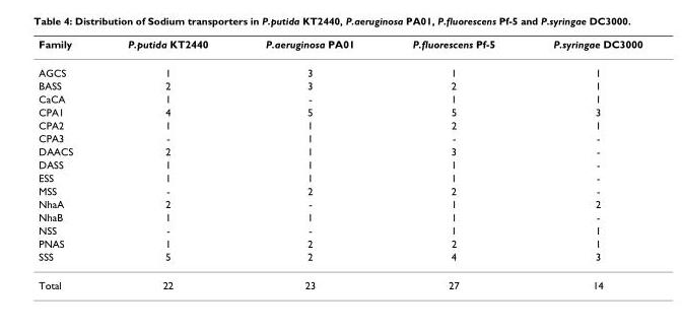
<table><thead><tr><td>Family</td><td>P.putida KT2440</td><td>P.aeruginosa PA01</td><td>P.fluorescens Pf-5</td><td>P.syringae DC3000</td></tr></thead><tbody><tr><td>AGCS</td><td>1</td><td>3</td><td>1</td><td>1</td></tr><tr><td>BASS</td><td>2</td><td>3</td><td>2</td><td>1</td></tr><tr><td>CaCA</td><td>1</td><td>-</td><td>1</td><td>1</td></tr><tr><td>CPA1</td><td>4</td><td>5</td><td>5</td><td>3</td></tr><tr><td>CPA2</td><td>1</td><td>1</td><td>2</td><td>1</td></tr><tr><td>CPA3</td><td>-</td><td>1</td><td>-</td><td>-</td></tr><tr><td>DAACS</td><td>2</td><td>1</td><td>3</td><td>-</td></tr><tr><td>DASS</td><td>1</td><td>1</td><td>1</td><td>-</td></tr><tr><td>ESS</td><td>1</td><td>1</td><td>1</td><td>-</td></tr><tr><td>MSS</td><td>-</td><td>2</td><td>2</td><td>-</td></tr><tr><td>NhaA</td><td>2</td><td>-</td><td>1</td><td>2</td></tr><tr><td>NhaB</td><td>1</td><td>1</td><td>1</td><td>-</td></tr><tr><td>NSS</td><td>-</td><td>-</td><td>1</td><td>1</td></tr><tr><td>PNAS</td><td>1</td><td>2</td><td>2</td><td>1</td></tr><tr><td>SSS</td><td>5</td><td>2</td><td>4</td><td>3</td></tr><tr><td>Total</td><td>22</td><td>23</td><td>27</td><td>14</td></tr></tbody></table>